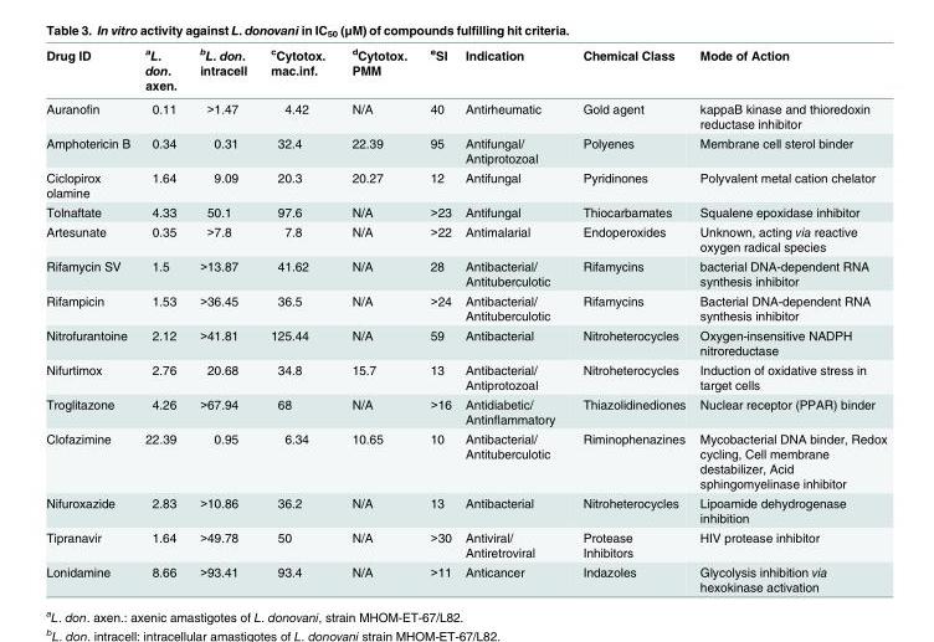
<table><thead><tr><td>Drug ID</td><td><sup>a</sup>L. don. axen.</td><td><sup>b</sup>L. don. intracell</td><td><sup>c</sup>Cytotox. mac.inf.</td><td><sup>d</sup>Cytotox. PMM</td><td><sup>e</sup>SI</td><td>Indication</td><td>Chemical Class</td><td>Mode of Action</td></tr></thead><tbody><tr><td>Auranofin</td><td>0.11</td><td>&gt;1.47</td><td>4.42</td><td>N/A</td><td>40</td><td>Antirheumatic</td><td>Gold agent</td><td>kappaB kinase and thioredoxin reductase inhibitor</td></tr><tr><td>Amphotericin B</td><td>0.34</td><td>0.31</td><td>32.4</td><td>22.39</td><td>95</td><td>Antifungal/ Antiprotozoal</td><td>Polyenes</td><td>Membrane cell sterol binder</td></tr><tr><td>Ciclopirox olamine</td><td>1.64</td><td>9.09</td><td>20.3</td><td>20.27</td><td>12</td><td>Antifungal</td><td>Pyridinones</td><td>Polyvalent metal cation chelator</td></tr><tr><td>Tolnaftate</td><td>4.33</td><td>50.1</td><td>97.6</td><td>N/A</td><td>&gt;23</td><td>Antifungal</td><td>Thiocarbamates</td><td>Squalene epoxidase inhibitor</td></tr><tr><td>Artesunate</td><td>0.35</td><td>&gt;7.8</td><td>7.8</td><td>N/A</td><td>&gt;22</td><td>Antimalarial</td><td>Endoperoxides</td><td>Unknown, acting via reactive oxygen radical species</td></tr><tr><td>Rifamycin SV</td><td>1.5</td><td>&gt;13.87</td><td>41.62</td><td>N/A</td><td>28</td><td>Antibacterial/ Antituberculotic</td><td>Rifamycins</td><td>bacterial DNA-dependent RNA synthesis inhibitor</td></tr><tr><td>Rifampicin</td><td>1.53</td><td>&gt;36.45</td><td>36.5</td><td>N/A</td><td>&gt;24</td><td>Antibacterial/ Antituberculotic</td><td>Rifamycins</td><td>Bacterial DNA-dependent RNA synthesis inhibitor</td></tr><tr><td>Nitrofurantoine</td><td>2.12</td><td>&gt;41.81</td><td>125.44</td><td>N/A</td><td>59</td><td>Antibacterial</td><td>Nitroheterocycles</td><td>Oxygen-insensitive NADPH nitroreductase</td></tr><tr><td>Nifurtimox</td><td>2.76</td><td>20.68</td><td>34.8</td><td>15.7</td><td>13</td><td>Antibacterial/ Antiprotozoal</td><td>Nitroheterocycles</td><td>Induction of oxidative stress in target cells</td></tr><tr><td>Troglitazone</td><td>4.26</td><td>&gt;67.94</td><td>68</td><td>N/A</td><td>&gt;16</td><td>Antidiabetic/ Antinflammatory</td><td>Thiazolidinediones</td><td>Nuclear receptor (PPAR) binder</td></tr><tr><td>Clofazimine</td><td>22.39</td><td>0.95</td><td>6.34</td><td>10.65</td><td>10</td><td>Antibacterial/ Antituberculotic</td><td>Riminophenazines</td><td>Mycobacterial DNA binder, Redox cycling, Cell membrane destabilizer, Acid sphingomyelinase inhibitor</td></tr><tr><td>Nifuroxazide</td><td>2.83</td><td>&gt;10.86</td><td>36.2</td><td>N/A</td><td>13</td><td>Antibacterial</td><td>Nitroheterocycles</td><td>Lipoamide dehydrogenase inhibition</td></tr><tr><td>Tipranavir</td><td>1.64</td><td>&gt;49.78</td><td>50</td><td>N/A</td><td>&gt;30</td><td>Antiviral/ Antiretroviral</td><td>Protease Inhibitors</td><td>HIV protease inhibitor</td></tr><tr><td>Lonidamine</td><td>8.66</td><td>&gt;93.41</td><td>93.4</td><td>N/A</td><td>&gt;11</td><td>Anticancer</td><td>Indazoles</td><td>Glycolysis inhibition via hexokinase activation</td></tr></tbody></table>